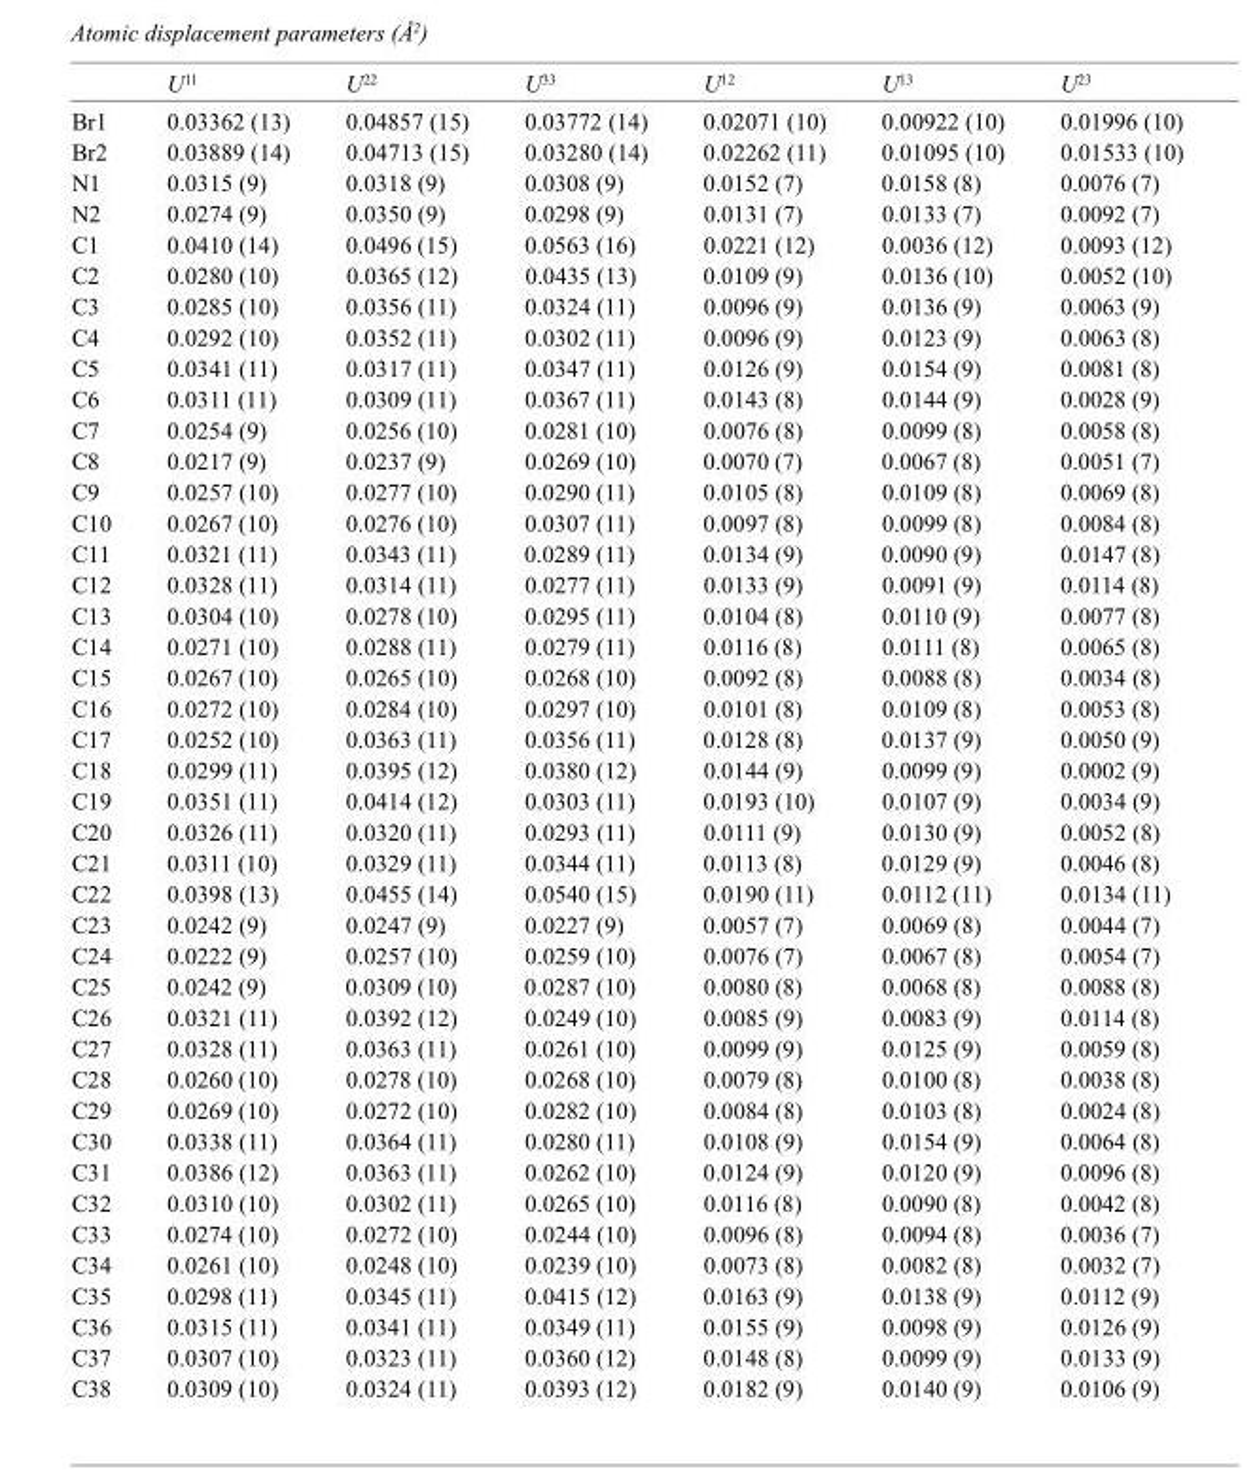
<table><thead><tr><td></td><td>U<sup>11</sup></td><td>U<sup>22</sup></td><td>U<sup>33</sup></td><td>U<sup>12</sup></td><td>U<sup>13</sup></td><td>U<sup>23</sup></td></tr></thead><tbody><tr><td>Br1</td><td>0.03362 (13)</td><td>0.04857 (15)</td><td>0.03772 (14)</td><td>0.02071 (10)</td><td>0.00922 (10)</td><td>0.01996 (10)</td></tr><tr><td>Br2</td><td>0.03889 (14)</td><td>0.04713 (15)</td><td>0.03280 (14)</td><td>0.02262 (11)</td><td>0.01095 (10)</td><td>0.01533 (10)</td></tr><tr><td>N1</td><td>0.0315 (9)</td><td>0.0318 (9)</td><td>0.0308 (9)</td><td>0.0152 (7)</td><td>0.0158 (8)</td><td>0.0076 (7)</td></tr><tr><td>N2</td><td>0.0274 (9)</td><td>0.0350 (9)</td><td>0.0298 (9)</td><td>0.0131 (7)</td><td>0.0133 (7)</td><td>0.0092 (7)</td></tr><tr><td>C1</td><td>0.0410 (14)</td><td>0.0496 (15)</td><td>0.0563 (16)</td><td>0.0221 (12)</td><td>0.0036 (12)</td><td>0.0093 (12)</td></tr><tr><td>C2</td><td>0.0280 (10)</td><td>0.0365 (12)</td><td>0.0435 (13)</td><td>0.0109 (9)</td><td>0.0136 (10)</td><td>0.0052 (10)</td></tr><tr><td>C3</td><td>0.0285 (10)</td><td>0.0356 (11)</td><td>0.0324 (11)</td><td>0.0096 (9)</td><td>0.0136 (9)</td><td>0.0063 (9)</td></tr><tr><td>C4</td><td>0.0292 (10)</td><td>0.0352 (11)</td><td>0.0302 (11)</td><td>0.0096 (9)</td><td>0.0123 (9)</td><td>0.0063 (8)</td></tr><tr><td>C5</td><td>0.0341 (11)</td><td>0.0317 (11)</td><td>0.0347 (11)</td><td>0.0126 (9)</td><td>0.0154 (9)</td><td>0.0081 (8)</td></tr><tr><td>C6</td><td>0.0311 (11)</td><td>0.0309 (11)</td><td>0.0367 (11)</td><td>0.0143 (8)</td><td>0.0144 (9)</td><td>0.0028 (9)</td></tr><tr><td>C7</td><td>0.0254 (9)</td><td>0.0256 (10)</td><td>0.0281 (10)</td><td>0.0076 (8)</td><td>0.0099 (8)</td><td>0.0058 (8)</td></tr><tr><td>C8</td><td>0.0217 (9)</td><td>0.0237 (9)</td><td>0.0269 (10)</td><td>0.0070 (7)</td><td>0.0067 (8)</td><td>0.0051 (7)</td></tr><tr><td>C9</td><td>0.0257 (10)</td><td>0.0277 (10)</td><td>0.0290 (11)</td><td>0.0105 (8)</td><td>0.0109 (8)</td><td>0.0069 (8)</td></tr><tr><td>C10</td><td>0.0267 (10)</td><td>0.0276 (10)</td><td>0.0307 (11)</td><td>0.0097 (8)</td><td>0.0099 (8)</td><td>0.0084 (8)</td></tr><tr><td>C11</td><td>0.0321 (11)</td><td>0.0343 (11)</td><td>0.0289 (11)</td><td>0.0134 (9)</td><td>0.0090 (9)</td><td>0.0147 (8)</td></tr><tr><td>C12</td><td>0.0328 (11)</td><td>0.0314 (11)</td><td>0.0277 (11)</td><td>0.0133 (9)</td><td>0.0091 (9)</td><td>0.0114 (8)</td></tr><tr><td>C13</td><td>0.0304 (10)</td><td>0.0278 (10)</td><td>0.0295 (11)</td><td>0.0104 (8)</td><td>0.0110 (9)</td><td>0.0077 (8)</td></tr><tr><td>C14</td><td>0.0271 (10)</td><td>0.0288 (11)</td><td>0.0279 (11)</td><td>0.0116 (8)</td><td>0.0111 (8)</td><td>0.0065 (8)</td></tr><tr><td>C15</td><td>0.0267 (10)</td><td>0.0265 (10)</td><td>0.0268 (10)</td><td>0.0092 (8)</td><td>0.0088 (8)</td><td>0.0034 (8)</td></tr><tr><td>C16</td><td>0.0272 (10)</td><td>0.0284 (10)</td><td>0.0297 (10)</td><td>0.0101 (8)</td><td>0.0109 (8)</td><td>0.0053 (8)</td></tr><tr><td>C17</td><td>0.0252 (10)</td><td>0.0363 (11)</td><td>0.0356 (11)</td><td>0.0128 (8)</td><td>0.0137 (9)</td><td>0.0050 (9)</td></tr><tr><td>C18</td><td>0.0299 (11)</td><td>0.0395 (12)</td><td>0.0380 (12)</td><td>0.0144 (9)</td><td>0.0099 (9)</td><td>0.0002 (9)</td></tr><tr><td>C19</td><td>0.0351 (11)</td><td>0.0414 (12)</td><td>0.0303 (11)</td><td>0.0193 (10)</td><td>0.0107 (9)</td><td>0.0034 (9)</td></tr><tr><td>C20</td><td>0.0326 (11)</td><td>0.0320 (11)</td><td>0.0293 (11)</td><td>0.0111 (9)</td><td>0.0130 (9)</td><td>0.0052 (8)</td></tr><tr><td>C21</td><td>0.0311 (10)</td><td>0.0329 (11)</td><td>0.0344 (11)</td><td>0.0113 (8)</td><td>0.0129 (9)</td><td>0.0046 (8)</td></tr><tr><td>C22</td><td>0.0398 (13)</td><td>0.0455 (14)</td><td>0.0540 (15)</td><td>0.0190 (11)</td><td>0.0112 (11)</td><td>0.0134 (11)</td></tr><tr><td>C23</td><td>0.0242 (9)</td><td>0.0247 (9)</td><td>0.0227 (9)</td><td>0.0057 (7)</td><td>0.0069 (8)</td><td>0.0044 (7)</td></tr><tr><td>C24</td><td>0.0222 (9)</td><td>0.0257 (10)</td><td>0.0259 (10)</td><td>0.0076 (7)</td><td>0.0067 (8)</td><td>0.0054 (7)</td></tr><tr><td>C25</td><td>0.0242 (9)</td><td>0.0309 (10)</td><td>0.0287 (10)</td><td>0.0080 (8)</td><td>0.0068 (8)</td><td>0.0088 (8)</td></tr><tr><td>C26</td><td>0.0321 (11)</td><td>0.0392 (12)</td><td>0.0249 (10)</td><td>0.0085 (9)</td><td>0.0083 (9)</td><td>0.0114 (8)</td></tr><tr><td>C27</td><td>0.0328 (11)</td><td>0.0363 (11)</td><td>0.0261 (10)</td><td>0.0099 (9)</td><td>0.0125 (9)</td><td>0.0059 (8)</td></tr><tr><td>C28</td><td>0.0260 (10)</td><td>0.0278 (10)</td><td>0.0268 (10)</td><td>0.0079 (8)</td><td>0.0100 (8)</td><td>0.0038 (8)</td></tr><tr><td>C29</td><td>0.0269 (10)</td><td>0.0272 (10)</td><td>0.0282 (10)</td><td>0.0084 (8)</td><td>0.0103 (8)</td><td>0.0024 (8)</td></tr><tr><td>C30</td><td>0.0338 (11)</td><td>0.0364 (11)</td><td>0.0280 (11)</td><td>0.0108 (9)</td><td>0.0154 (9)</td><td>0.0064 (8)</td></tr><tr><td>C31</td><td>0.0386 (12)</td><td>0.0363 (11)</td><td>0.0262 (10)</td><td>0.0124 (9)</td><td>0.0120 (9)</td><td>0.0096 (8)</td></tr><tr><td>C32</td><td>0.0310 (10)</td><td>0.0302 (11)</td><td>0.0265 (10)</td><td>0.0116 (8)</td><td>0.0090 (8)</td><td>0.0042 (8)</td></tr><tr><td>C33</td><td>0.0274 (10)</td><td>0.0272 (10)</td><td>0.0244 (10)</td><td>0.0096 (8)</td><td>0.0094 (8)</td><td>0.0036 (7)</td></tr><tr><td>C34</td><td>0.0261 (10)</td><td>0.0248 (10)</td><td>0.0239 (10)</td><td>0.0073 (8)</td><td>0.0082 (8)</td><td>0.0032 (7)</td></tr><tr><td>C35</td><td>0.0298 (11)</td><td>0.0345 (11)</td><td>0.0415 (12)</td><td>0.0163 (9)</td><td>0.0138 (9)</td><td>0.0112 (9)</td></tr><tr><td>C36</td><td>0.0315 (11)</td><td>0.0341 (11)</td><td>0.0349 (11)</td><td>0.0155 (9)</td><td>0.0098 (9)</td><td>0.0126 (9)</td></tr><tr><td>C37</td><td>0.0307 (10)</td><td>0.0323 (11)</td><td>0.0360 (12)</td><td>0.0148 (8)</td><td>0.0099 (9)</td><td>0.0133 (9)</td></tr><tr><td>C38</td><td>0.0309 (10)</td><td>0.0324 (11)</td><td>0.0393 (12)</td><td>0.0182 (9)</td><td>0.0140 (9)</td><td>0.0106 (9)</td></tr></tbody></table>